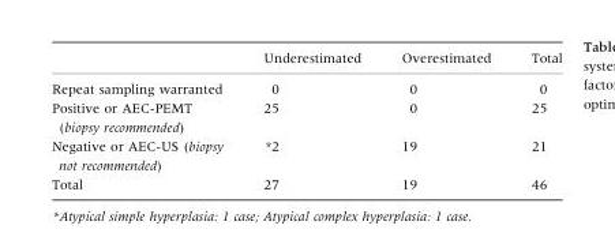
<table><thead><tr><td></td><td>Underestimated</td><td>Overestimated</td><td>Total</td></tr></thead><tbody><tr><td>Repeat sampling warranted</td><td>0</td><td>0</td><td>0</td></tr><tr><td>Positive or AEC-PEMT (biopsy recommended)</td><td>25</td><td>0</td><td>25</td></tr><tr><td>Negative or AEC-US (biopsy not recommended)</td><td>*2</td><td>19</td><td>21</td></tr><tr><td>Total</td><td>27</td><td>19</td><td>46</td></tr></tbody></table>